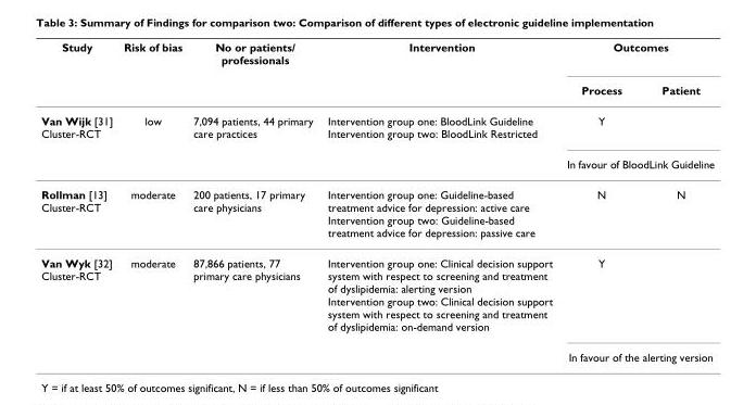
<table><thead><tr><td rowspan="2">Study</td><td rowspan="2">Risk of bias</td><td rowspan="2">No or patients/ professionals</td><td rowspan="2">Intervention</td><td colspan="2">Outcomes</td></tr><tr><td>Process</td><td>Patient</td></tr></thead><tbody><tr><td rowspan="2">Van Wijk [31] Cluster-RCT</td><td>low</td><td>7,094 patients, 44 primary care practices</td><td>Intervention group one: BloodLink Guideline Intervention group two: BloodLink Restricted</td><td>Y</td><td></td></tr><tr><td></td><td></td><td></td><td colspan="2">In favour of BloodLink Guideline</td></tr><tr><td>Rollman [13] Cluster-RCT</td><td>moderate</td><td>200 patients, 17 primary care physicians</td><td>Intervention group one: Guideline-based treatment advice for depression: active care Intervention group two: Guideline-based treatment advice for depression: passive care</td><td>N</td><td>N</td></tr><tr><td rowspan="2">Van Wyk [32] Cluster-RCT</td><td>moderate</td><td>87,866 patients, 77 primary care physicians</td><td>Intervention group one: Clinical decision support system with respect to screening and treatment of dyslipidemia: alerting version Intervention group two: Clinical decision support system with respect to screening and treatment of dyslipidemia: on-demand version</td><td>Y</td><td></td></tr><tr><td></td><td></td><td></td><td colspan="2">In favour of the alerting version</td></tr></tbody></table>